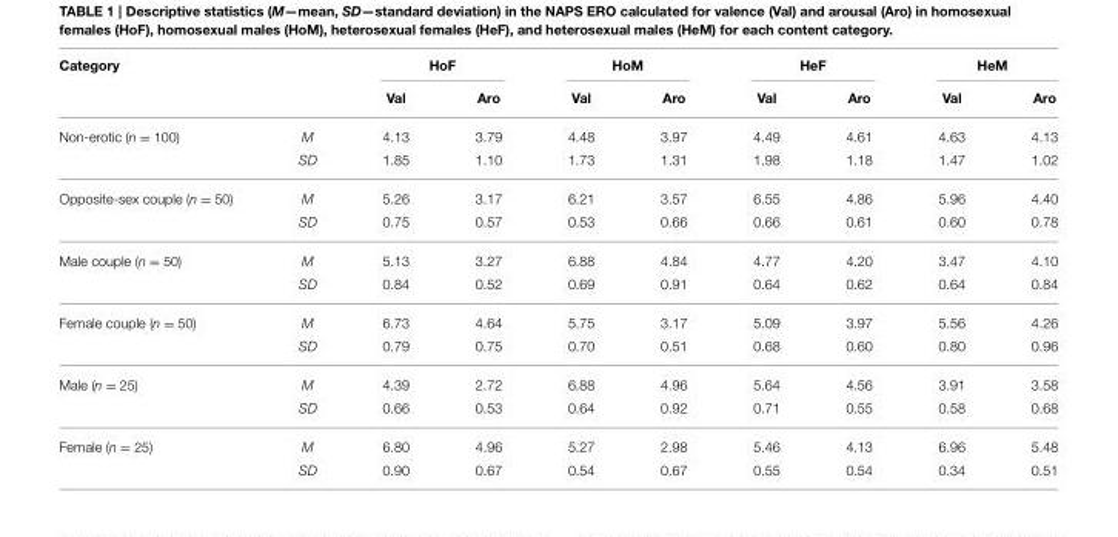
<table><thead><tr><td rowspan="2">Category</td><td rowspan="2"></td><td colspan="2">HoF</td><td colspan="2">HoM</td><td colspan="2">HeF</td><td colspan="2">HeM</td></tr><tr><td>Val</td><td>Aro</td><td>Val</td><td>Aro</td><td>Val</td><td>Aro</td><td>Val</td><td>Aro</td></tr></thead><tbody><tr><td rowspan="2">Non-erotic (n = 100)</td><td>M</td><td>4.13</td><td>3.79</td><td>4.48</td><td>3.97</td><td>4.49</td><td>4.61</td><td>4.63</td><td>4.13</td></tr><tr><td>SD</td><td>1.85</td><td>1.10</td><td>1.73</td><td>1.31</td><td>1.98</td><td>1.18</td><td>1.47</td><td>1.02</td></tr><tr><td rowspan="2">Opposite-sex couple (n = 50)</td><td>M</td><td>5.26</td><td>3.17</td><td>6.21</td><td>3.57</td><td>6.55</td><td>4.86</td><td>5.96</td><td>4.40</td></tr><tr><td>SD</td><td>0.75</td><td>0.57</td><td>0.53</td><td>0.66</td><td>0.66</td><td>0.61</td><td>0.60</td><td>0.78</td></tr><tr><td rowspan="2">Male couple (n = 50)</td><td>M</td><td>5.13</td><td>3.27</td><td>6.88</td><td>4.84</td><td>4.77</td><td>4.20</td><td>3.47</td><td>4.10</td></tr><tr><td>SD</td><td>0.84</td><td>0.52</td><td>0.69</td><td>0.91</td><td>0.64</td><td>0.62</td><td>0.64</td><td>0.84</td></tr><tr><td rowspan="2">Female couple (n = 50)</td><td>M</td><td>6.73</td><td>4.64</td><td>5.75</td><td>3.17</td><td>5.09</td><td>3.97</td><td>5.56</td><td>4.26</td></tr><tr><td>SD</td><td>0.79</td><td>0.75</td><td>0.70</td><td>0.51</td><td>0.68</td><td>0.60</td><td>0.80</td><td>0.96</td></tr><tr><td rowspan="2">Male (n = 25)</td><td>M</td><td>4.39</td><td>2.72</td><td>6.88</td><td>4.96</td><td>5.64</td><td>4.56</td><td>3.91</td><td>3.58</td></tr><tr><td>SD</td><td>0.66</td><td>0.53</td><td>0.64</td><td>0.92</td><td>0.71</td><td>0.55</td><td>0.58</td><td>0.68</td></tr><tr><td rowspan="2">Female (n = 25)</td><td>M</td><td>6.80</td><td>4.96</td><td>5.27</td><td>2.98</td><td>5.46</td><td>4.13</td><td>6.96</td><td>5.48</td></tr><tr><td>SD</td><td>0.90</td><td>0.67</td><td>0.54</td><td>0.67</td><td>0.55</td><td>0.54</td><td>0.34</td><td>0.51</td></tr></tbody></table>